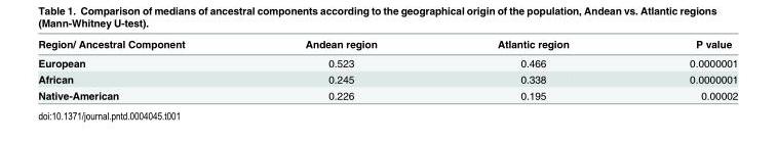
<table><thead><tr><td>Region/ Ancestral Component</td><td>Andean region</td><td>Atlantic region</td><td>P value</td></tr></thead><tbody><tr><td>European</td><td>0.523</td><td>0.466</td><td>0.0000001</td></tr><tr><td>African</td><td>0.245</td><td>0.338</td><td>0.0000001</td></tr><tr><td>Native-American</td><td>0.226</td><td>0.195</td><td>0.00002</td></tr></tbody></table>